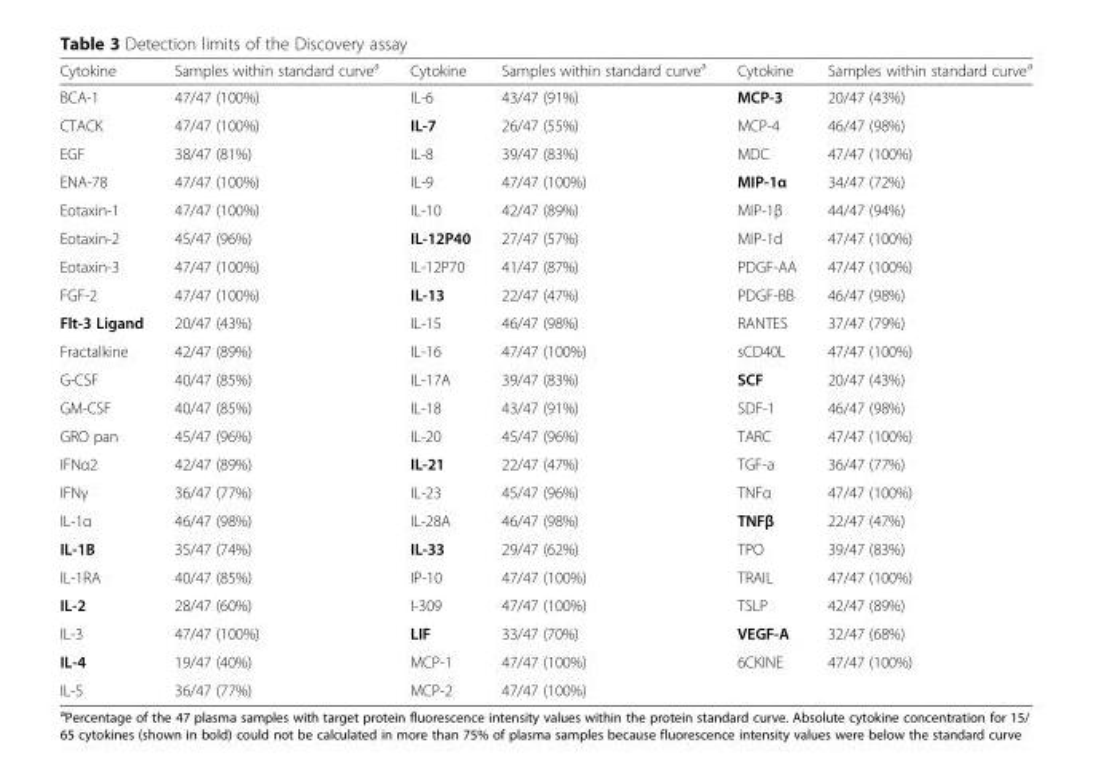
<table><thead><tr><td>Cytokine</td><td>Samples within standard curve<sup>a</sup></td><td>Cytokine</td><td>Samples within standard curve<sup>a</sup></td><td>Cytokine</td><td>Samples within standard curve<sup>a</sup></td></tr></thead><tbody><tr><td>BCA-1</td><td>47/47 (100%)</td><td>IL-6</td><td>43/47 (91%)</td><td>MCP-3</td><td>20/47 (43%)</td></tr><tr><td>CTACK</td><td>47/47 (100%)</td><td>IL-7</td><td>26/47 (55%)</td><td>MCP-4</td><td>46/47 (98%)</td></tr><tr><td>EGF</td><td>38/47 (81%)</td><td>IL-8</td><td>39/47 (83%)</td><td>MDC</td><td>47/47 (100%)</td></tr><tr><td>ENA-78</td><td>47/47 (100%)</td><td>IL-9</td><td>47/47 (100%)</td><td>MIP-1α</td><td>34/47 (72%)</td></tr><tr><td>Eotaxin-1</td><td>47/47 (100%)</td><td>IL-10</td><td>42/47 (89%)</td><td>MIP-1β</td><td>44/47 (94%)</td></tr><tr><td>Eotaxin-2</td><td>45/47 (96%)</td><td>IL-12P40</td><td>27/47 (57%)</td><td>MIP-1d</td><td>47/47 (100%)</td></tr><tr><td>Eotaxin-3</td><td>47/47 (100%)</td><td>IL-12P70</td><td>41/47 (87%)</td><td>PDGF-AA</td><td>47/47 (100%)</td></tr><tr><td>FGF-2</td><td>47/47 (100%)</td><td>IL-13</td><td>22/47 (47%)</td><td>PDGF-BB</td><td>46/47 (98%)</td></tr><tr><td>Flt-3 Ligand</td><td>20/47 (43%)</td><td>IL-15</td><td>46/47 (98%)</td><td>RANTES</td><td>37/47 (79%)</td></tr><tr><td>Fractalkine</td><td>42/47 (89%)</td><td>IL-16</td><td>47/47 (100%)</td><td>sCD40L</td><td>47/47 (100%)</td></tr><tr><td>G-CSF</td><td>40/47 (85%)</td><td>IL-17A</td><td>39/47 (83%)</td><td>SCF</td><td>20/47 (43%)</td></tr><tr><td>GM-CSF</td><td>40/47 (85%)</td><td>IL-18</td><td>43/47 (91%)</td><td>SDF-1</td><td>46/47 (98%)</td></tr><tr><td>GRO pan</td><td>45/47 (96%)</td><td>IL-20</td><td>45/47 (96%)</td><td>TARC</td><td>47/47 (100%)</td></tr><tr><td>IFNα2</td><td>42/47 (89%)</td><td>IL-21</td><td>22/47 (47%)</td><td>TGF-a</td><td>36/47 (77%)</td></tr><tr><td>IFNγ</td><td>36/47 (77%)</td><td>IL-23</td><td>45/47 (96%)</td><td>TNFα</td><td>47/47 (100%)</td></tr><tr><td>IL-1α</td><td>46/47 (98%)</td><td>IL-28A</td><td>46/47 (98%)</td><td>TNFβ</td><td>22/47 (47%)</td></tr><tr><td>IL-1B</td><td>35/47 (74%)</td><td>IL-33</td><td>29/47 (62%)</td><td>TPO</td><td>39/47 (83%)</td></tr><tr><td>IL-1RA</td><td>40/47 (85%)</td><td>IP-10</td><td>47/47 (100%)</td><td>TRAIL</td><td>47/47 (100%)</td></tr><tr><td>IL-2</td><td>28/47 (60%)</td><td>I-309</td><td>47/47 (100%)</td><td>TSLP</td><td>42/47 (89%)</td></tr><tr><td>IL-3</td><td>47/47 (100%)</td><td>LIF</td><td>33/47 (70%)</td><td>VEGF-A</td><td>32/47 (68%)</td></tr><tr><td>IL-4</td><td>19/47 (40%)</td><td>MCP-1</td><td>47/47 (100%)</td><td>6CKINE</td><td>47/47 (100%)</td></tr><tr><td>IL-5</td><td>36/47 (77%)</td><td>MCP-2</td><td>47/47 (100%)</td><td></td><td></td></tr></tbody></table>